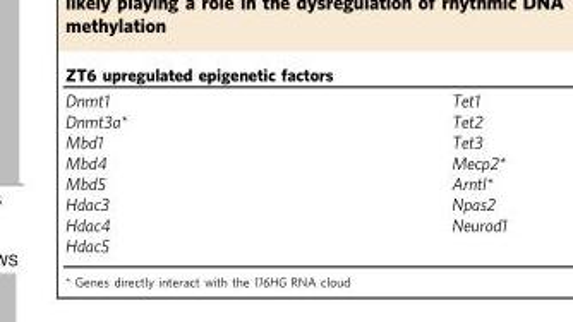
<table><thead><tr><td colspan="2">ZT6 upregulated epigenetic factors</td></tr><tr><td>Dnmt1</td><td>Tet1</td></tr></thead><tbody><tr><td>Dnmt3a*</td><td>Tet2</td></tr><tr><td>Mbd1</td><td>Tet3</td></tr><tr><td>Mbd4</td><td>Mecp2*</td></tr><tr><td>Mbd5</td><td>Arntl*</td></tr><tr><td>Hdac3</td><td>Npas2</td></tr><tr><td>Hdac4</td><td>Neurod1</td></tr><tr><td>Hdac5</td><td></td></tr></tbody></table>